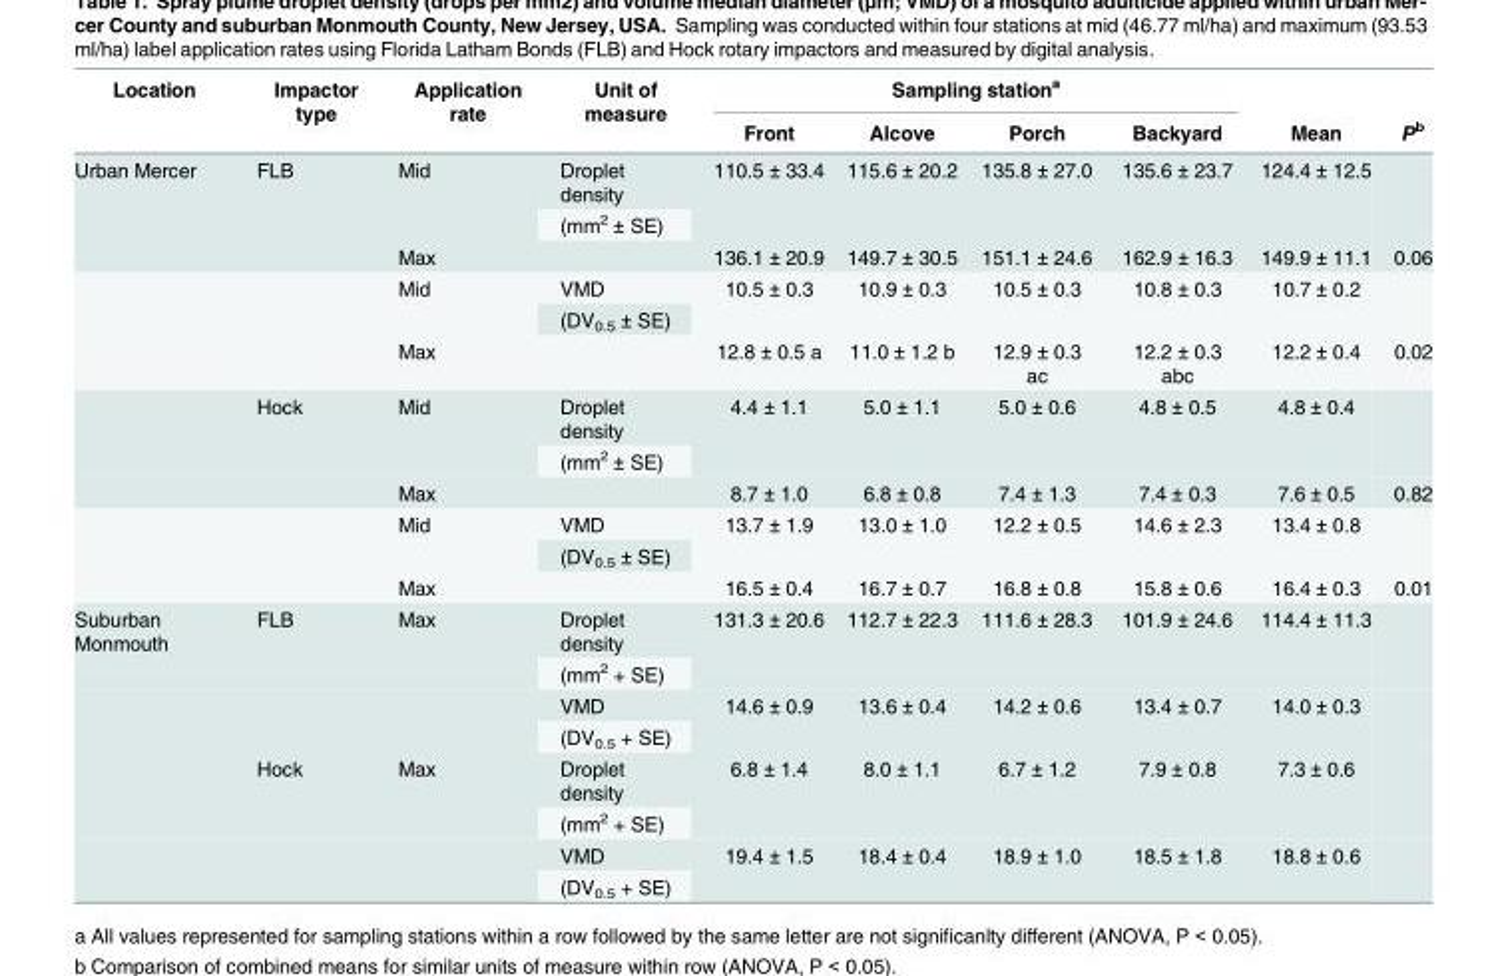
<table><thead><tr><td rowspan="2">Location</td><td rowspan="2">Impactor type</td><td rowspan="2">Application rate</td><td rowspan="2">Unit of measure</td><td colspan="4">Sampling station<sup>a</sup></td><td rowspan="2">Mean</td><td rowspan="2">P<sup>b</sup></td></tr><tr><td>Front</td><td>Alcove</td><td>Porch</td><td>Backyard</td></tr></thead><tbody><tr><td rowspan="12">Urban Mercer</td><td rowspan="2">FLB</td><td rowspan="2">Mid</td><td>Droplet density</td><td rowspan="2">110.5 ± 33.4</td><td rowspan="2">115.6 ± 20.2</td><td rowspan="2">135.8 ± 27.0</td><td rowspan="2">135.6 ± 23.7</td><td rowspan="2">124.4 ± 12.5</td><td rowspan="2"></td></tr><tr><td>(mm<sup>2</sup> ± SE)</td></tr><tr><td></td><td>Max</td><td></td><td>136.1 ± 20.9</td><td>149.7 ± 30.5</td><td>151.1 ± 24.6</td><td>162.9 ± 16.3</td><td>149.9 ± 11.1</td><td>0.06</td></tr><tr><td rowspan="2"></td><td rowspan="2">Mid</td><td>VMD</td><td rowspan="2">10.5 ± 0.3</td><td rowspan="2">10.9 ± 0.3</td><td rowspan="2">10.5 ± 0.3</td><td rowspan="2">10.8 ± 0.3</td><td rowspan="2">10.7 ± 0.2</td><td rowspan="2"></td></tr><tr><td>(DV<sub>0.5</sub> ± SE)</td></tr><tr><td></td><td>Max</td><td></td><td>12.8 ± 0.5 a</td><td>11.0 ± 1.2 b</td><td>12.9 ± 0.3 ac</td><td>12.2 ± 0.3 abc</td><td>12.2 ± 0.4</td><td>0.02</td></tr><tr><td rowspan="2">Hock</td><td rowspan="2">Mid</td><td>Droplet density</td><td rowspan="2">4.4 ± 1.1</td><td rowspan="2">5.0 ± 1.1</td><td rowspan="2">5.0 ± 0.6</td><td rowspan="2">4.8 ± 0.5</td><td rowspan="2">4.8 ± 0.4</td><td rowspan="2"></td></tr><tr><td>(mm<sup>2</sup> ± SE)</td></tr><tr><td></td><td>Max</td><td></td><td>8.7 ± 1.0</td><td>6.8 ± 0.8</td><td>7.4 ± 1.3</td><td>7.4 ± 0.3</td><td>7.6 ± 0.5</td><td>0.82</td></tr><tr><td rowspan="2"></td><td rowspan="2">Mid</td><td>VMD</td><td rowspan="2">13.7 ± 1.9</td><td rowspan="2">13.0 ± 1.0</td><td rowspan="2">12.2 ± 0.5</td><td rowspan="2">14.6 ± 2.3</td><td rowspan="2">13.4 ± 0.8</td><td rowspan="2"></td></tr><tr><td>(DV<sub>0.5</sub> ± SE)</td></tr><tr><td></td><td>Max</td><td></td><td>16.5 ± 0.4</td><td>16.7 ± 0.7</td><td>16.8 ± 0.8</td><td>15.8 ± 0.6</td><td>16.4 ± 0.3</td><td>0.01</td></tr><tr><td rowspan="8">Suburban Monmouth</td><td rowspan="2">FLB</td><td rowspan="2">Max</td><td>Droplet density</td><td rowspan="2">131.3 ± 20.6</td><td rowspan="2">112.7 ± 22.3</td><td rowspan="2">111.6 ± 28.3</td><td rowspan="2">101.9 ± 24.6</td><td rowspan="2">114.4 ± 11.3</td><td rowspan="2"></td></tr><tr><td>(mm<sup>2</sup> + SE)</td></tr><tr><td rowspan="2"></td><td rowspan="2"></td><td>VMD</td><td rowspan="2">14.6 ± 0.9</td><td rowspan="2">13.6 ± 0.4</td><td rowspan="2">14.2 ± 0.6</td><td rowspan="2">13.4 ± 0.7</td><td rowspan="2">14.0 ± 0.3</td><td rowspan="2"></td></tr><tr><td>(DV<sub>0.5</sub> + SE)</td></tr><tr><td rowspan="2">Hock</td><td rowspan="2">Max</td><td>Droplet density</td><td rowspan="2">6.8 ± 1.4</td><td rowspan="2">8.0 ± 1.1</td><td rowspan="2">6.7 ± 1.2</td><td rowspan="2">7.9 ± 0.8</td><td rowspan="2">7.3 ± 0.6</td><td rowspan="2"></td></tr><tr><td>(mm<sup>2</sup> + SE)</td></tr><tr><td rowspan="2"></td><td rowspan="2"></td><td>VMD</td><td rowspan="2">19.4 ± 1.5</td><td rowspan="2">18.4 ± 0.4</td><td rowspan="2">18.9 ± 1.0</td><td rowspan="2">18.5 ± 1.8</td><td rowspan="2">18.8 ± 0.6</td><td rowspan="2"></td></tr><tr><td>(DV<sub>0.5</sub> + SE)</td></tr></tbody></table>